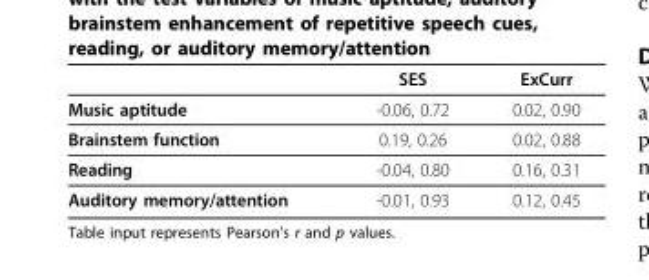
<table><thead><tr><td></td><td>SES</td><td>ExCurr</td></tr></thead><tbody><tr><td>Music aptitude</td><td>-0.06, 0.72</td><td>0.02, 0.90</td></tr><tr><td>Brainstem function</td><td>0.19, 0.26</td><td>0.02, 0.88</td></tr><tr><td>Reading</td><td>-0.04, 0.80</td><td>0.16, 0.31</td></tr><tr><td>Auditory memory/attention</td><td>-0.01, 0.93</td><td>0.12, 0.45</td></tr></tbody></table>